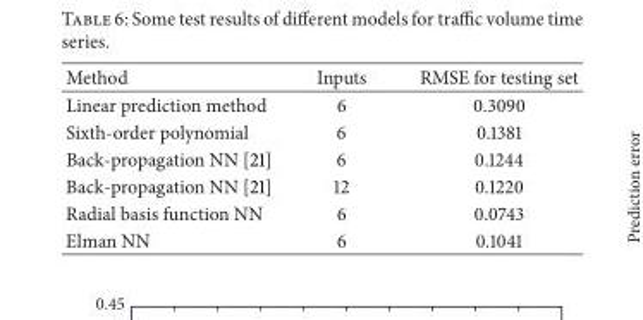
<table><thead><tr><td>Method</td><td>Inputs</td><td>RMSE for testing set</td></tr></thead><tbody><tr><td>Linear prediction method</td><td>6</td><td>0.3090</td></tr><tr><td>Sixth-order polynomial</td><td>6</td><td>0.1381</td></tr><tr><td>Back-propagation NN [21]</td><td>6</td><td>0.1244</td></tr><tr><td>Back-propagation NN [21]</td><td>12</td><td>0.1220</td></tr><tr><td>Radial basis function NN</td><td>6</td><td>0.0743</td></tr><tr><td>Elman NN</td><td>6</td><td>0.1041</td></tr></tbody></table>